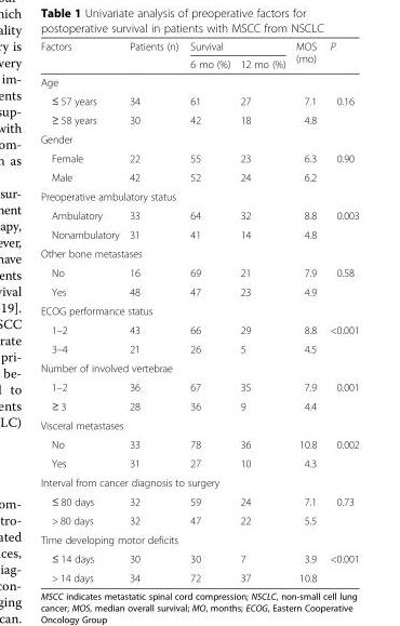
<table><thead><tr><td rowspan="2">Factors</td><td rowspan="2">Patients (n)</td><td colspan="2">Survival</td><td rowspan="2">MOS (mo)</td><td rowspan="2">P</td></tr><tr><td>6 mo (%)</td><td>12 mo (%)</td></tr></thead><tbody><tr><td colspan="6">Age</td></tr><tr><td>≤ 57 years</td><td>34</td><td>61</td><td>27</td><td>7.1</td><td rowspan="2">0.16</td></tr><tr><td>≥ 58 years</td><td>30</td><td>42</td><td>18</td><td>4.8</td></tr><tr><td colspan="6">Gender</td></tr><tr><td>Female</td><td>22</td><td>55</td><td>23</td><td>6.3</td><td rowspan="2">0.90</td></tr><tr><td>Male</td><td>42</td><td>52</td><td>24</td><td>6.2</td></tr><tr><td colspan="6">Preoperative ambulatory status</td></tr><tr><td>Ambulatory</td><td>33</td><td>64</td><td>32</td><td>8.8</td><td rowspan="2">0.003</td></tr><tr><td>Nonambulatory</td><td>31</td><td>41</td><td>14</td><td>4.8</td></tr><tr><td colspan="6">Other bone metastases</td></tr><tr><td>No</td><td>16</td><td>69</td><td>21</td><td>7.9</td><td rowspan="2">0.58</td></tr><tr><td>Yes</td><td>48</td><td>47</td><td>23</td><td>4.9</td></tr><tr><td colspan="6">ECOG performance status</td></tr><tr><td>1–2</td><td>43</td><td>66</td><td>29</td><td>8.8</td><td rowspan="2">&lt;0.001</td></tr><tr><td>3–4</td><td>21</td><td>26</td><td>5</td><td>4.5</td></tr><tr><td colspan="6">Number of involved vertebrae</td></tr><tr><td>1–2</td><td>36</td><td>67</td><td>35</td><td>7.9</td><td rowspan="2">0.001</td></tr><tr><td>≥ 3</td><td>28</td><td>36</td><td>9</td><td>4.4</td></tr><tr><td colspan="6">Visceral metastases</td></tr><tr><td>No</td><td>33</td><td>78</td><td>36</td><td>10.8</td><td rowspan="2">0.002</td></tr><tr><td>Yes</td><td>31</td><td>27</td><td>10</td><td>4.3</td></tr><tr><td colspan="6">Interval from cancer diagnosis to surgery</td></tr><tr><td>≤ 80 days</td><td>32</td><td>59</td><td>24</td><td>7.1</td><td rowspan="2">0.73</td></tr><tr><td>&gt; 80 days</td><td>32</td><td>47</td><td>22</td><td>5.5</td></tr><tr><td colspan="6">Time developing motor deficits</td></tr><tr><td>≤ 14 days</td><td>30</td><td>30</td><td>7</td><td>3.9</td><td rowspan="2">&lt;0.001</td></tr><tr><td>&gt; 14 days</td><td>34</td><td>72</td><td>37</td><td>10.8</td></tr></tbody></table>